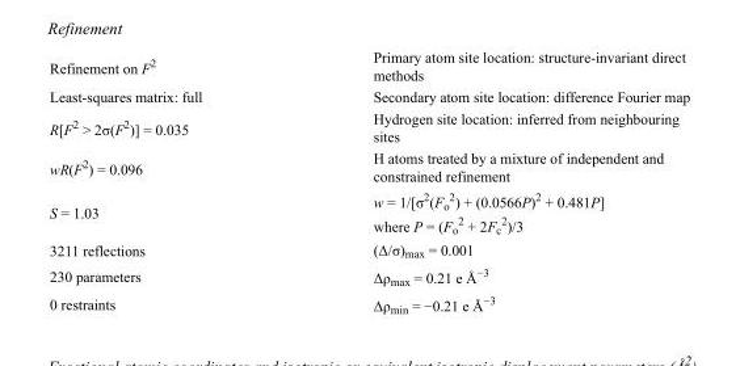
<table><tbody><tr><td>Refinement on F<sup>2</sup></td><td>Primary atom site location: structure-invariant direct methods</td></tr><tr><td>Least-squares matrix: full</td><td>Secondary atom site location: difference Fourier map</td></tr><tr><td>R[F<sup>2</sup> &gt; 2σ(F<sup>2</sup>)] = 0.035</td><td>Hydrogen site location: inferred from neighbouring sites</td></tr><tr><td>wR(F<sup>2</sup>) = 0.096</td><td>H atoms treated by a mixture of independent and constrained refinement</td></tr><tr><td>S = 1.03</td><td>w = 1/[σ<sup>2</sup>(F<sub>o</sub> <sup>2</sup>) + (0.0566P)<sup>2</sup> + 0.481P] where P = (F<sub>o</sub> <sup>2</sup> + 2F<sub>c</sub> <sup>2</sup>)/3</td></tr><tr><td>3211 reflections</td><td>(Δ/σ)<sub>max</sub> = 0.001</td></tr><tr><td>230 parameters</td><td>Δρ<sub>max</sub> = 0.21 e Å<sup>−3</sup></td></tr><tr><td>0 restraints</td><td>Δρ<sub>min</sub> = −0.21 e Å<sup>−3</sup></td></tr></tbody></table>